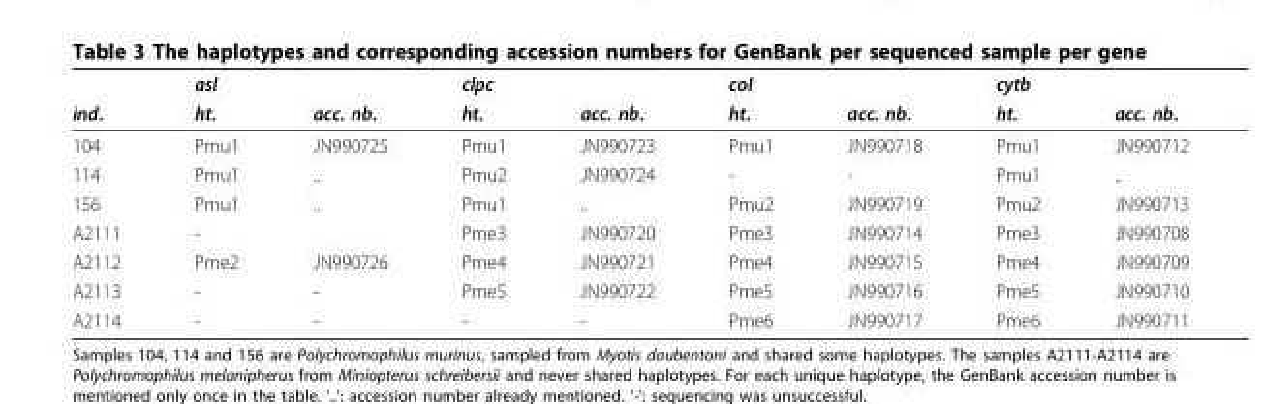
<table><thead><tr><td rowspan="2">ind.</td><td rowspan="2">asl ht.</td><td rowspan="2">acc. nb.</td><td rowspan="2">clpc ht.</td><td rowspan="2">acc. nb.</td><td rowspan="2">coI ht.</td><td rowspan="2">acc. nb.</td><td rowspan="2">cytb ht.</td><td rowspan="2">acc. nb.</td></tr><tr></tr></thead><tbody><tr><td>104</td><td>Pmu1</td><td>JN990725</td><td>Pmu1</td><td>JN990723</td><td>Pmu1</td><td>JN990718</td><td>Pmu1</td><td>JN990712</td></tr><tr><td>114</td><td>Pmu1</td><td>..</td><td>Pmu2</td><td>JN990724</td><td>-</td><td>-</td><td>Pmu1</td><td>..</td></tr><tr><td>156</td><td>Pmu1</td><td>..</td><td>Pmu1</td><td>..</td><td>Pmu2</td><td>JN990719</td><td>Pmu2</td><td>JN990713</td></tr><tr><td>A2111</td><td>-</td><td></td><td>Pme3</td><td>JN990720</td><td>Pme3</td><td>JN990714</td><td>Pme3</td><td>JN990708</td></tr><tr><td>A2112</td><td>Pme2</td><td>JN990726</td><td>Pme4</td><td>JN990721</td><td>Pme4</td><td>JN990715</td><td>Pme4</td><td>JN990709</td></tr><tr><td>A2113</td><td>-</td><td>-</td><td>Pme5</td><td>JN990722</td><td>Pme5</td><td>JN990716</td><td>Pme5</td><td>JN990710</td></tr><tr><td>A2114</td><td>-</td><td>-</td><td>-</td><td>-</td><td>Pme6</td><td>JN990717</td><td>Pme6</td><td>JN990711</td></tr></tbody></table>